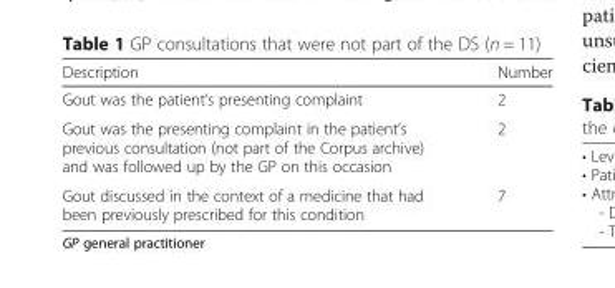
<table><thead><tr><td>Description</td><td>Number</td></tr></thead><tbody><tr><td>Gout was the patient’s presenting complaint</td><td>2</td></tr><tr><td>Gout was the presenting complaint in the patient’s previous consultation (not part of the Corpus archive) and was followed up by the GP on this occasion</td><td>2</td></tr><tr><td>Gout discussed in the context of a medicine that had been previously prescribed for this condition</td><td>7</td></tr></tbody></table>